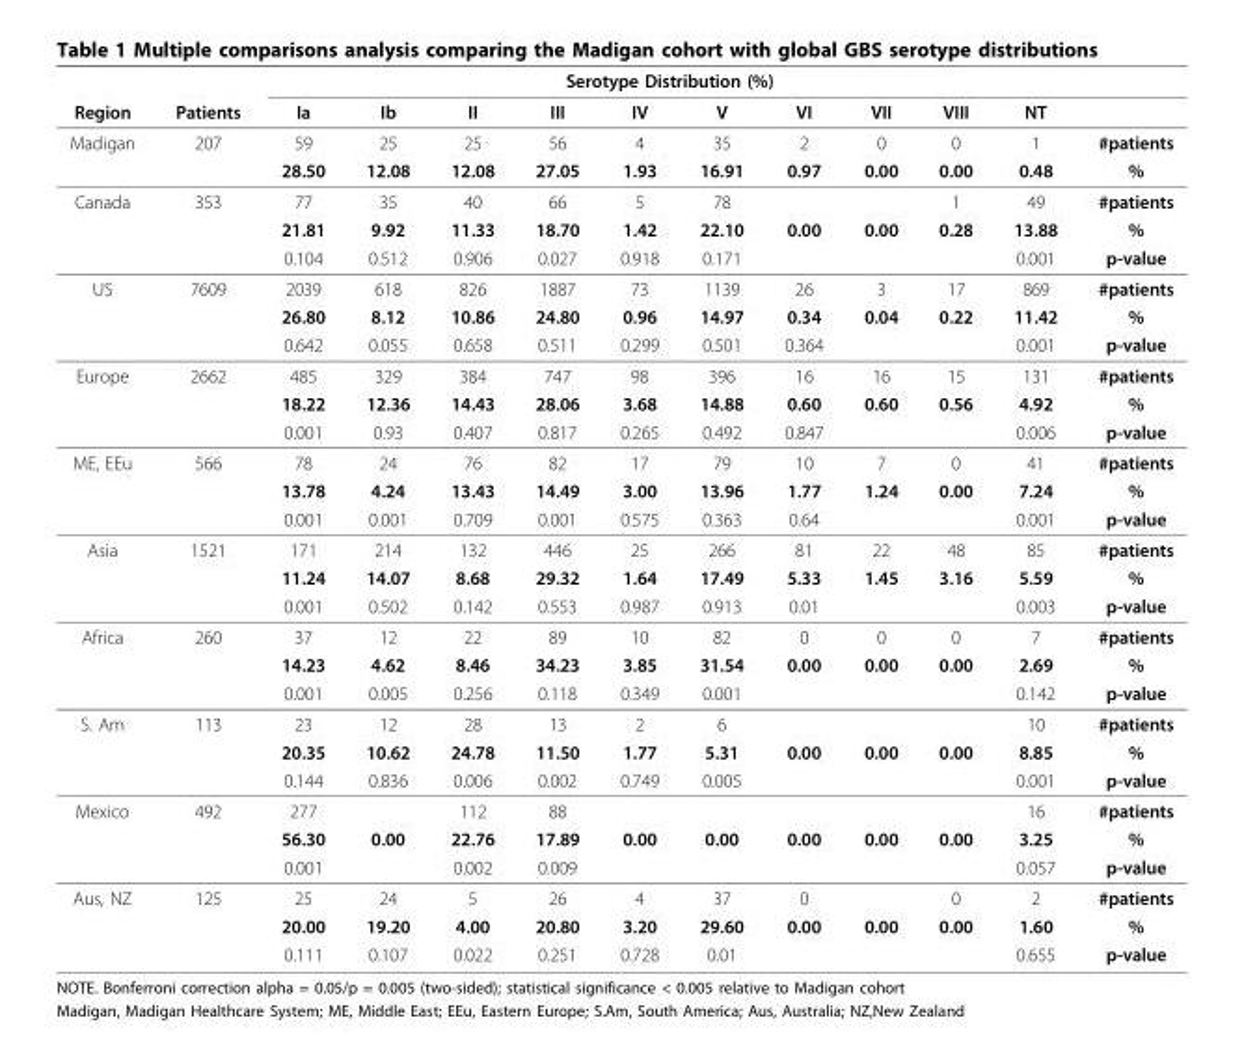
<table><thead><tr><td rowspan="2">Region</td><td rowspan="2">Patients</td><td colspan="10">Serotype Distribution (%)</td><td rowspan="2"></td></tr><tr><td>Ia</td><td>Ib</td><td>II</td><td>III</td><td>IV</td><td>V</td><td>VI</td><td>VII</td><td>VIII</td><td>NT</td></tr></thead><tbody><tr><td rowspan="2">Madigan</td><td>207</td><td>59</td><td>25</td><td>25</td><td>56</td><td>4</td><td>35</td><td>2</td><td>0</td><td>0</td><td>1</td><td>#patients</td></tr><tr><td></td><td>28.50</td><td>12.08</td><td>12.08</td><td>27.05</td><td>1.93</td><td>16.91</td><td>0.97</td><td>0.00</td><td>0.00</td><td>0.48</td><td>%</td></tr><tr><td rowspan="3">Canada</td><td>353</td><td>77</td><td>35</td><td>40</td><td>66</td><td>5</td><td>78</td><td></td><td></td><td>1</td><td>49</td><td>#patients</td></tr><tr><td></td><td>21.81</td><td>9.92</td><td>11.33</td><td>18.70</td><td>1.42</td><td>22.10</td><td>0.00</td><td>0.00</td><td>0.28</td><td>13.88</td><td>%</td></tr><tr><td></td><td>0.104</td><td>0.512</td><td>0.906</td><td>0.027</td><td>0.918</td><td>0.171</td><td></td><td></td><td></td><td>0.001</td><td>p-value</td></tr><tr><td rowspan="3">US</td><td>7609</td><td>2039</td><td>618</td><td>826</td><td>1887</td><td>73</td><td>1139</td><td>26</td><td>3</td><td>17</td><td>869</td><td>#patients</td></tr><tr><td></td><td>26.80</td><td>8.12</td><td>10.86</td><td>24.80</td><td>0.96</td><td>14.97</td><td>0.34</td><td>0.04</td><td>0.22</td><td>11.42</td><td>%</td></tr><tr><td></td><td>0.642</td><td>0.055</td><td>0.658</td><td>0.511</td><td>0.299</td><td>0.501</td><td>0.364</td><td></td><td></td><td>0.001</td><td>p-value</td></tr><tr><td rowspan="3">Europe</td><td>2662</td><td>485</td><td>329</td><td>384</td><td>747</td><td>98</td><td>396</td><td>16</td><td>16</td><td>15</td><td>131</td><td>#patients</td></tr><tr><td></td><td>18.22</td><td>12.36</td><td>14.43</td><td>28.06</td><td>3.68</td><td>14.88</td><td>0.60</td><td>0.60</td><td>0.56</td><td>4.92</td><td>%</td></tr><tr><td></td><td>0.001</td><td>0.93</td><td>0.407</td><td>0.817</td><td>0.265</td><td>0.492</td><td>0.847</td><td></td><td></td><td>0.006</td><td>p-value</td></tr><tr><td rowspan="3">ME, EEu</td><td>566</td><td>78</td><td>24</td><td>76</td><td>82</td><td>17</td><td>79</td><td>10</td><td>7</td><td>0</td><td>41</td><td>#patients</td></tr><tr><td></td><td>13.78</td><td>4.24</td><td>13.43</td><td>14.49</td><td>3.00</td><td>13.96</td><td>1.77</td><td>1.24</td><td>0.00</td><td>7.24</td><td>%</td></tr><tr><td></td><td>0.001</td><td>0.001</td><td>0.709</td><td>0.001</td><td>0.575</td><td>0.363</td><td>0.64</td><td></td><td></td><td>0.001</td><td>p-value</td></tr><tr><td rowspan="3">Asia</td><td>1521</td><td>171</td><td>214</td><td>132</td><td>446</td><td>25</td><td>266</td><td>81</td><td>22</td><td>48</td><td>85</td><td>#patients</td></tr><tr><td></td><td>11.24</td><td>14.07</td><td>8.68</td><td>29.32</td><td>1.64</td><td>17.49</td><td>5.33</td><td>1.45</td><td>3.16</td><td>5.59</td><td>%</td></tr><tr><td></td><td>0.001</td><td>0.502</td><td>0.142</td><td>0.553</td><td>0.987</td><td>0.913</td><td>0.01</td><td></td><td></td><td>0.003</td><td>p-value</td></tr><tr><td rowspan="3">Africa</td><td>260</td><td>37</td><td>12</td><td>22</td><td>89</td><td>10</td><td>82</td><td>0</td><td>0</td><td>0</td><td>7</td><td>#patients</td></tr><tr><td></td><td>14.23</td><td>4.62</td><td>8.46</td><td>34.23</td><td>3.85</td><td>31.54</td><td>0.00</td><td>0.00</td><td>0.00</td><td>2.69</td><td>%</td></tr><tr><td></td><td>0.001</td><td>0.005</td><td>0.256</td><td>0.118</td><td>0.349</td><td>0.001</td><td></td><td></td><td></td><td>0.142</td><td>p-value</td></tr><tr><td rowspan="3">S. Am</td><td>113</td><td>23</td><td>12</td><td>28</td><td>13</td><td>2</td><td>6</td><td></td><td></td><td></td><td>10</td><td>#patients</td></tr><tr><td></td><td>20.35</td><td>10.62</td><td>24.78</td><td>11.50</td><td>1.77</td><td>5.31</td><td>0.00</td><td>0.00</td><td>0.00</td><td>8.85</td><td>%</td></tr><tr><td></td><td>0.144</td><td>0.836</td><td>0.006</td><td>0.002</td><td>0.749</td><td>0.005</td><td></td><td></td><td></td><td>0.001</td><td>p-value</td></tr><tr><td rowspan="3">Mexico</td><td>492</td><td>277</td><td></td><td>112</td><td>88</td><td></td><td></td><td></td><td></td><td></td><td>16</td><td>#patients</td></tr><tr><td></td><td>56.30</td><td>0.00</td><td>22.76</td><td>17.89</td><td>0.00</td><td>0.00</td><td>0.00</td><td>0.00</td><td>0.00</td><td>3.25</td><td>%</td></tr><tr><td></td><td>0.001</td><td></td><td>0.002</td><td>0.009</td><td></td><td></td><td></td><td></td><td></td><td>0.057</td><td>p-value</td></tr><tr><td rowspan="3">Aus, NZ</td><td>125</td><td>25</td><td>24</td><td>5</td><td>26</td><td>4</td><td>37</td><td>0</td><td></td><td>0</td><td>2</td><td>#patients</td></tr><tr><td></td><td>20.00</td><td>19.20</td><td>4.00</td><td>20.80</td><td>3.20</td><td>29.60</td><td>0.00</td><td>0.00</td><td>0.00</td><td>1.60</td><td>%</td></tr><tr><td></td><td>0.111</td><td>0.107</td><td>0.022</td><td>0.251</td><td>0.728</td><td>0.01</td><td></td><td></td><td></td><td>0.655</td><td>p-value</td></tr></tbody></table>